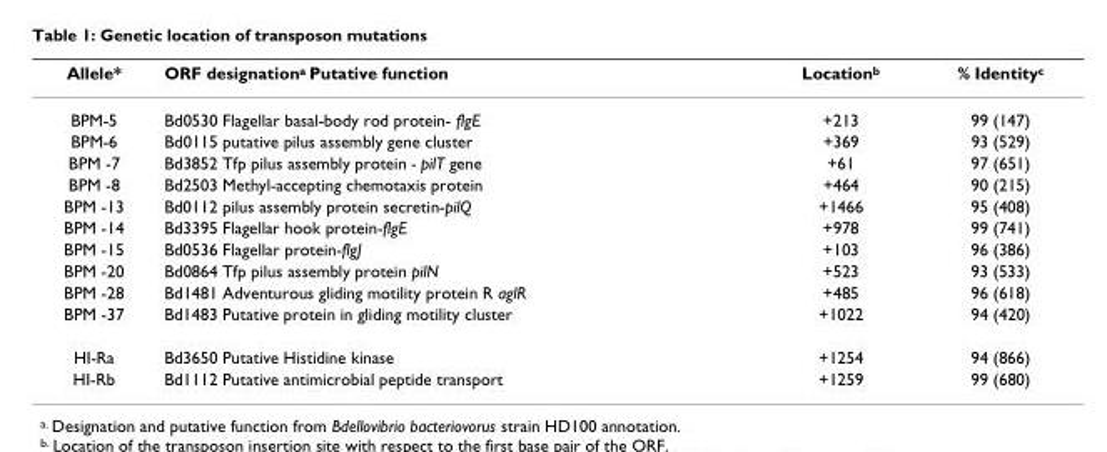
<table><thead><tr><td>Allele*</td><td>ORF designation<sup>a</sup> Putative function</td><td>Location<sup>b</sup></td><td>% Identity<sup>c</sup></td></tr></thead><tbody><tr><td>BPM-5</td><td>Bd0530 Flagellar basal-body rod protein- flgE</td><td>+213</td><td>99 (147)</td></tr><tr><td>BPM-6</td><td>Bd0115 putative pilus assembly gene cluster</td><td>+369</td><td>93 (529)</td></tr><tr><td>BPM -7</td><td>Bd3852 Tfp pilus assembly protein - pilT gene</td><td>+61</td><td>97 (651)</td></tr><tr><td>BPM -8</td><td>Bd2503 Methyl-accepting chemotaxis protein</td><td>+464</td><td>90 (215)</td></tr><tr><td>BPM -13</td><td>Bd0112 pilus assembly protein secretin-pilQ</td><td>+1466</td><td>95 (408)</td></tr><tr><td>BPM -14</td><td>Bd3395 Flagellar hook protein-flgE</td><td>+978</td><td>99 (741)</td></tr><tr><td>BPM -15</td><td>Bd0536 Flagellar protein-flgJ</td><td>+103</td><td>96 (386)</td></tr><tr><td>BPM -20</td><td>Bd0864 Tfp pilus assembly protein pilN</td><td>+523</td><td>93 (533)</td></tr><tr><td>BPM -28</td><td>Bd1481 Adventurous gliding motility protein R aglR</td><td>+485</td><td>96 (618)</td></tr><tr><td>BPM -37</td><td>Bd1483 Putative protein in gliding motility cluster</td><td>+1022</td><td>94 (420)</td></tr><tr><td>HI-Ra</td><td>Bd3650 Putative Histidine kinase</td><td>+1254</td><td>94 (866)</td></tr><tr><td>HI-Rb</td><td>Bd1112 Putative antimicrobial peptide transport</td><td>+1259</td><td>99 (680)</td></tr></tbody></table>